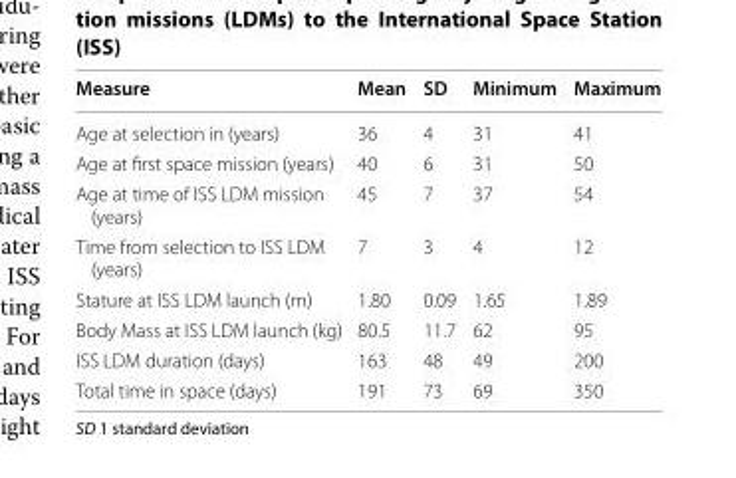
<table><thead><tr><td>Measure</td><td>Mean</td><td>SD</td><td>Minimum</td><td>Maximum</td></tr></thead><tbody><tr><td>Age at selection in (years)</td><td>36</td><td>4</td><td>31</td><td>41</td></tr><tr><td>Age at first space mission (years)</td><td>40</td><td>6</td><td>31</td><td>50</td></tr><tr><td>Age at time of ISS LDM mission (years)</td><td>45</td><td>7</td><td>37</td><td>54</td></tr><tr><td>Time from selection to ISS LDM (years)</td><td>7</td><td>3</td><td>4</td><td>12</td></tr><tr><td>Stature at ISS LDM launch (m)</td><td>1.80</td><td>0.09</td><td>1.65</td><td>1.89</td></tr><tr><td>Body Mass at ISS LDM launch (kg)</td><td>80.5</td><td>11.7</td><td>62</td><td>95</td></tr><tr><td>ISS LDM duration (days)</td><td>163</td><td>48</td><td>49</td><td>200</td></tr><tr><td>Total time in space (days)</td><td>191</td><td>73</td><td>69</td><td>350</td></tr></tbody></table>